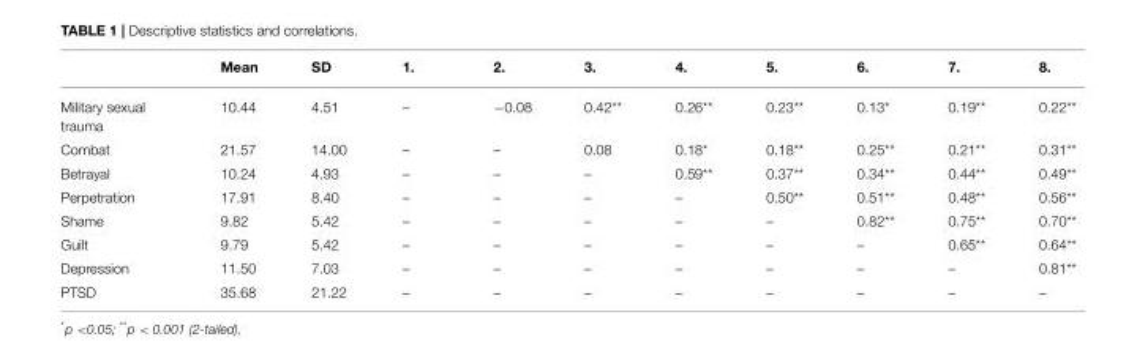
<table><thead><tr><td></td><td>Mean</td><td>SD</td><td>1.</td><td>2.</td><td>3.</td><td>4.</td><td>5.</td><td>6.</td><td>7.</td><td>8.</td></tr></thead><tbody><tr><td>Military sexual trauma</td><td>10.44</td><td>4.51</td><td>–</td><td>−0.08</td><td>0.42**</td><td>0.26**</td><td>0.23**</td><td>0.13*</td><td>0.19**</td><td>0.22**</td></tr><tr><td>Combat</td><td>21.57</td><td>14.00</td><td>–</td><td>–</td><td>0.08</td><td>0.18*</td><td>0.18**</td><td>0.25**</td><td>0.21**</td><td>0.31**</td></tr><tr><td>Betrayal</td><td>10.24</td><td>4.93</td><td>–</td><td>–</td><td>–</td><td>0.59**</td><td>0.37**</td><td>0.34**</td><td>0.44**</td><td>0.49**</td></tr><tr><td>Perpetration</td><td>17.91</td><td>8.40</td><td>–</td><td>–</td><td>–</td><td>–</td><td>0.50**</td><td>0.51**</td><td>0.48**</td><td>0.56**</td></tr><tr><td>Shame</td><td>9.82</td><td>5.42</td><td>–</td><td>–</td><td>–</td><td>–</td><td>–</td><td>0.82**</td><td>0.75**</td><td>0.70**</td></tr><tr><td>Guilt</td><td>9.79</td><td>5.42</td><td>–</td><td>–</td><td>–</td><td>–</td><td>–</td><td>–</td><td>0.65**</td><td>0.64**</td></tr><tr><td>Depression</td><td>11.50</td><td>7.03</td><td>–</td><td>–</td><td>–</td><td>–</td><td>–</td><td>–</td><td>–</td><td>0.81**</td></tr><tr><td>PTSD</td><td>35.68</td><td>21.22</td><td>–</td><td>–</td><td>–</td><td>–</td><td>–</td><td>–</td><td>–</td><td>–</td></tr></tbody></table>